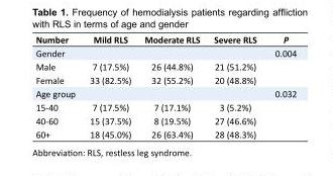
<table><tbody><tr><td>Number</td><td>Mild RLS</td><td>Moderate RLS</td><td>Severe RLS</td><td>P</td></tr><tr><td>Gender</td><td></td><td></td><td></td><td>0.004</td></tr><tr><td>Male</td><td>7 (17.5%)</td><td>26 (44.8%)</td><td>21 (51.2%)</td><td></td></tr><tr><td>Female</td><td>33 (82.5%)</td><td>32 (55.2%)</td><td>20 (48.8%)</td><td></td></tr><tr><td>Age group</td><td></td><td></td><td></td><td>0.032</td></tr><tr><td>15-40</td><td>7 (17.5%)</td><td>7 (17.1%)</td><td>3 (5.2%)</td><td></td></tr><tr><td>40-60</td><td>15 (37.5%)</td><td>8 (19.5%)</td><td>27 (46.6%)</td><td></td></tr><tr><td>60+</td><td>18 (45.0%)</td><td>26 (63.4%)</td><td>28 (48.3%)</td><td></td></tr></tbody></table>